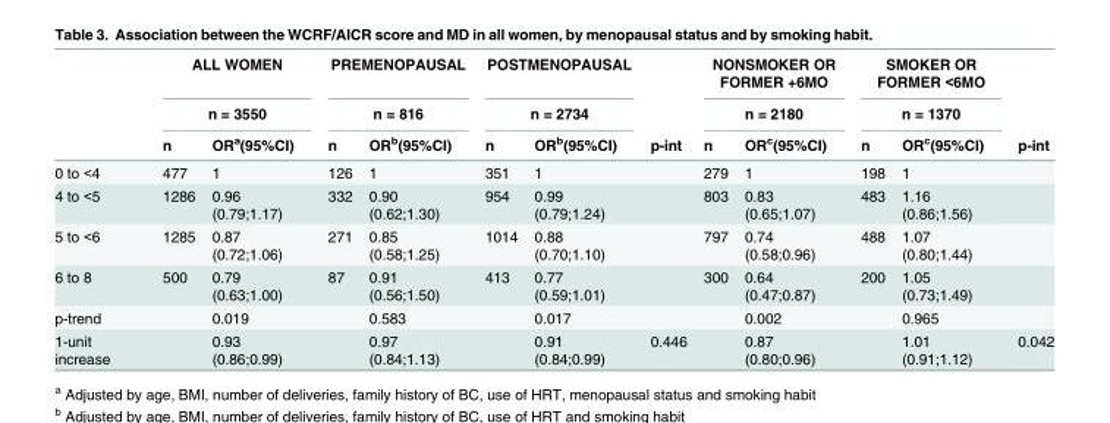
<table><thead><tr><td rowspan="3"></td><td rowspan="2" colspan="2">ALL WOMEN n = 3550</td><td rowspan="2" colspan="2">PREMENOPAUSAL n = 816</td><td rowspan="2" colspan="2">POSTMENOPAUSAL n = 2734</td><td rowspan="3">p-int</td><td rowspan="2" colspan="2">NONSMOKER OR FORMER +6MO n = 2180</td><td rowspan="2" colspan="2">SMOKER OR FORMER &lt;6MO n = 1370</td><td rowspan="3">p-int</td></tr><tr></tr><tr><td>n</td><td>OR<sup>a</sup>(95%CI)</td><td>n</td><td>OR<sup>b</sup>(95%CI)</td><td>n</td><td>OR<sup>b</sup>(95%CI)</td><td>n</td><td>OR<sup>c</sup>(95%CI)</td><td>n</td><td>OR<sup>c</sup>(95%CI)</td></tr></thead><tbody><tr><td>0 to &lt;4</td><td>477</td><td>1</td><td>126</td><td>1</td><td>351</td><td>1</td><td></td><td>279</td><td>1</td><td>198</td><td>1</td><td></td></tr><tr><td>4 to &lt;5</td><td>1286</td><td>0.96 (0.79;1.17)</td><td>332</td><td>0.90 (0.62;1.30)</td><td>954</td><td>0.99 (0.79;1.24)</td><td></td><td>803</td><td>0.83 (0.65;1.07)</td><td>483</td><td>1.16 (0.86;1.56)</td><td></td></tr><tr><td>5 to &lt;6</td><td>1285</td><td>0.87 (0.72;1.06)</td><td>271</td><td>0.85 (0.58;1.25)</td><td>1014</td><td>0.88 (0.70;1.10)</td><td></td><td>797</td><td>0.74 (0.58;0.96)</td><td>488</td><td>1.07 (0.80;1.44)</td><td></td></tr><tr><td>6 to 8</td><td>500</td><td>0.79 (0.63;1.00)</td><td>87</td><td>0.91 (0.56;1.50)</td><td>413</td><td>0.77 (0.59;1.01)</td><td></td><td>300</td><td>0.64 (0.47;0.87)</td><td>200</td><td>1.05 (0.73;1.49)</td><td></td></tr><tr><td>p-trend</td><td></td><td>0.019</td><td></td><td>0.583</td><td></td><td>0.017</td><td></td><td></td><td>0.002</td><td></td><td>0.965</td><td></td></tr><tr><td>1-unit increase</td><td></td><td>0.93 (0.86;0.99)</td><td></td><td>0.97 (0.84;1.13)</td><td></td><td>0.91 (0.84;0.99)</td><td>0.446</td><td></td><td>0.87 (0.80;0.96)</td><td></td><td>1.01 (0.91;1.12)</td><td>0.042</td></tr></tbody></table>